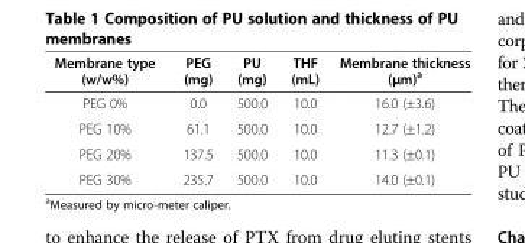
<table><thead><tr><td>Membrane type (w/w%)</td><td>PEG (mg)</td><td>PU (mg)</td><td>THF (mL)</td><td>Membrane thickness (μm)<sup>a</sup></td></tr></thead><tbody><tr><td>PEG 0%</td><td>0.0</td><td>500.0</td><td>10.0</td><td>16.0 (±3.6)</td></tr><tr><td>PEG 10%</td><td>61.1</td><td>500.0</td><td>10.0</td><td>12.7 (±1.2)</td></tr><tr><td>PEG 20%</td><td>137.5</td><td>500.0</td><td>10.0</td><td>11.3 (±0.1)</td></tr><tr><td>PEG 30%</td><td>235.7</td><td>500.0</td><td>10.0</td><td>14.0 (±0.1)</td></tr></tbody></table>